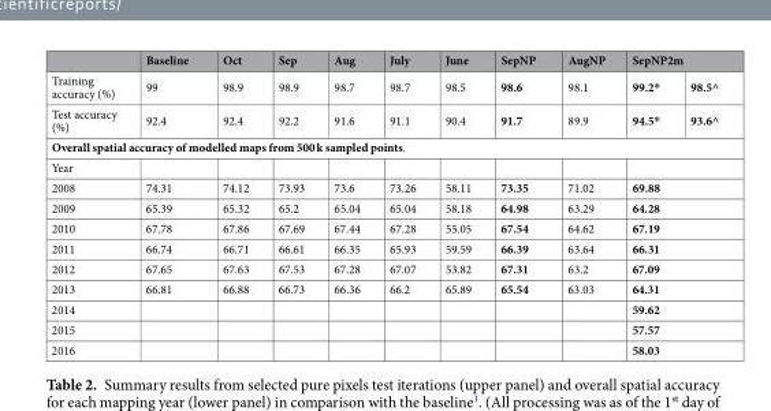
<table><thead><tr><td rowspan="2">Training accuracy (%)</td><td rowspan="2">Baseline 99</td><td rowspan="2">Oct 98.9</td><td rowspan="2">Sep 98.9</td><td rowspan="2">Aug 98.7</td><td rowspan="2">July 98.7</td><td rowspan="2">June 98.5</td><td rowspan="2">SepNP 98.6</td><td rowspan="2">AugNP 98.1</td><td colspan="2">SepNP2m</td></tr><tr><td>99.2*</td><td>98.5^</td></tr></thead><tbody><tr><td>Test accuracy (%)</td><td>92.4</td><td>92.4</td><td>92.2</td><td>91.6</td><td>91.1</td><td>90.4</td><td>91.7</td><td>89.9</td><td>94.5*</td><td>93.6^</td></tr><tr><td colspan="11">Overall spatial accuracy of modelled maps from 500 k sampled points.</td></tr><tr><td colspan="11">Year</td></tr><tr><td>2008</td><td>74.31</td><td>74.12</td><td>73.93</td><td>73.6</td><td>73.26</td><td>58.11</td><td>73.35</td><td>71.02</td><td colspan="2">69.88</td></tr><tr><td>2009</td><td>65.39</td><td>65.32</td><td>65.2</td><td>65.04</td><td>65.04</td><td>58.18</td><td>64.98</td><td>63.29</td><td colspan="2">64.28</td></tr><tr><td>2010</td><td>67.78</td><td>67.86</td><td>67.69</td><td>67.44</td><td>67.28</td><td>55.05</td><td>67.54</td><td>64.62</td><td colspan="2">67.19</td></tr><tr><td>2011</td><td>66.74</td><td>66.71</td><td>66.61</td><td>66.35</td><td>65.93</td><td>59.59</td><td>66.39</td><td>63.64</td><td colspan="2">66.31</td></tr><tr><td>2012</td><td>67.65</td><td>67.63</td><td>67.53</td><td>67.28</td><td>67.07</td><td>53.82</td><td>67.31</td><td>63.2</td><td colspan="2">67.09</td></tr><tr><td>2013</td><td>66.81</td><td>66.88</td><td>66.73</td><td>66.36</td><td>66.2</td><td>65.89</td><td>65.54</td><td>63.03</td><td colspan="2">64.31</td></tr><tr><td>2014</td><td></td><td></td><td></td><td></td><td></td><td></td><td></td><td></td><td colspan="2">59.62</td></tr><tr><td>2015</td><td></td><td></td><td></td><td></td><td></td><td></td><td></td><td></td><td colspan="2">57.57</td></tr><tr><td>2016</td><td></td><td></td><td></td><td></td><td></td><td></td><td></td><td></td><td colspan="2">58.03</td></tr></tbody></table>